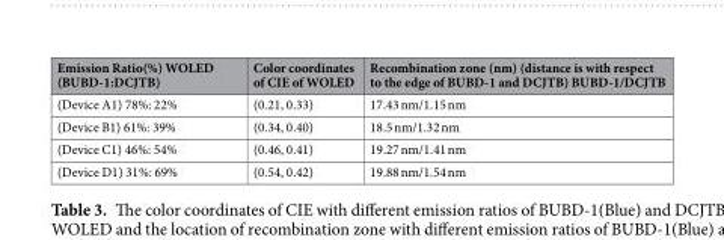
<table><thead><tr><td>Emission Ratio(%) WOLED (BUBD-1:DCJTB)</td><td>Color coordinates of CIE of WOLED</td><td>Recombination zone (nm) (distance is with respect to the edge of BUBD-1 and DCJTB) BUBD-1/DCJTB</td></tr></thead><tbody><tr><td>(Device A1) 78%: 22%</td><td>(0.21, 0.33)</td><td>17.43 nm/1.15 nm</td></tr><tr><td>(Device B1) 61%: 39%</td><td>(0.34, 0.40)</td><td>18.5 nm/1.32 nm</td></tr><tr><td>(Device C1) 46%: 54%</td><td>(0.46, 0.41)</td><td>19.27 nm/1.41 nm</td></tr><tr><td>(Device D1) 31%: 69%</td><td>(0.54, 0.42)</td><td>19.88 nm/1.54 nm</td></tr></tbody></table>